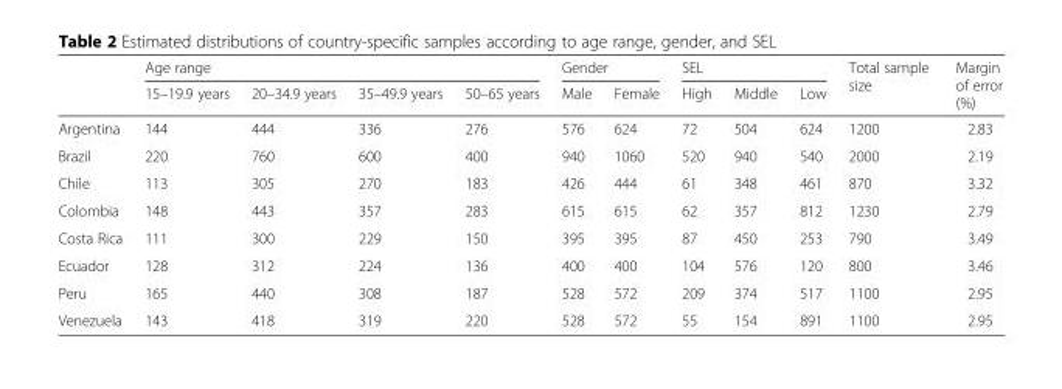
<table><thead><tr><td rowspan="2"></td><td colspan="4">Age range</td><td colspan="2">Gender</td><td colspan="3">SEL</td><td rowspan="2">Total sample size</td><td rowspan="2">Margin of error (%)</td></tr><tr><td>15–19.9 years</td><td>20–34.9 years</td><td>35–49.9 years</td><td>50–65 years</td><td>Male</td><td>Female</td><td>High</td><td>Middle</td><td>Low</td></tr></thead><tbody><tr><td>Argentina</td><td>144</td><td>444</td><td>336</td><td>276</td><td>576</td><td>624</td><td>72</td><td>504</td><td>624</td><td>1200</td><td>2.83</td></tr><tr><td>Brazil</td><td>220</td><td>760</td><td>600</td><td>400</td><td>940</td><td>1060</td><td>520</td><td>940</td><td>540</td><td>2000</td><td>2.19</td></tr><tr><td>Chile</td><td>113</td><td>305</td><td>270</td><td>183</td><td>426</td><td>444</td><td>61</td><td>348</td><td>461</td><td>870</td><td>3.32</td></tr><tr><td>Colombia</td><td>148</td><td>443</td><td>357</td><td>283</td><td>615</td><td>615</td><td>62</td><td>357</td><td>812</td><td>1230</td><td>2.79</td></tr><tr><td>Costa Rica</td><td>111</td><td>300</td><td>229</td><td>150</td><td>395</td><td>395</td><td>87</td><td>450</td><td>253</td><td>790</td><td>3.49</td></tr><tr><td>Ecuador</td><td>128</td><td>312</td><td>224</td><td>136</td><td>400</td><td>400</td><td>104</td><td>576</td><td>120</td><td>800</td><td>3.46</td></tr><tr><td>Peru</td><td>165</td><td>440</td><td>308</td><td>187</td><td>528</td><td>572</td><td>209</td><td>374</td><td>517</td><td>1100</td><td>2.95</td></tr><tr><td>Venezuela</td><td>143</td><td>418</td><td>319</td><td>220</td><td>528</td><td>572</td><td>55</td><td>154</td><td>891</td><td>1100</td><td>2.95</td></tr></tbody></table>